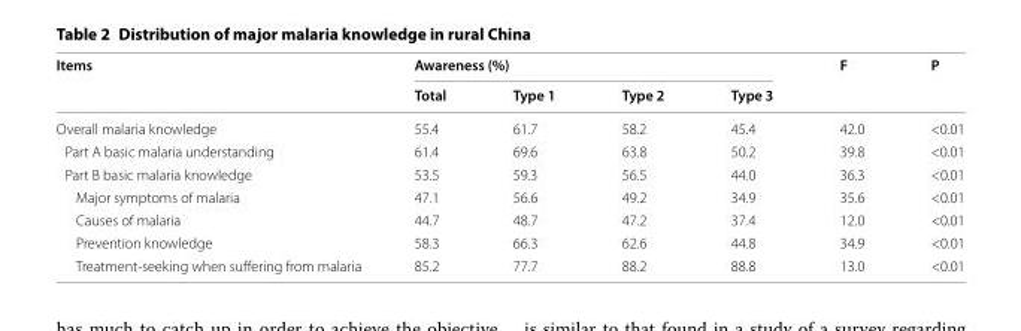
<table><thead><tr><td rowspan="2">Items</td><td colspan="4">Awareness (%)</td><td rowspan="2">F</td><td rowspan="2">P</td></tr><tr><td>Total</td><td>Type 1</td><td>Type 2</td><td>Type 3</td></tr></thead><tbody><tr><td>Overall malaria knowledge</td><td>55.4</td><td>61.7</td><td>58.2</td><td>45.4</td><td>42.0</td><td>&lt;0.01</td></tr><tr><td>Part A basic malaria understanding</td><td>61.4</td><td>69.6</td><td>63.8</td><td>50.2</td><td>39.8</td><td>&lt;0.01</td></tr><tr><td>Part B basic malaria knowledge</td><td>53.5</td><td>59.3</td><td>56.5</td><td>44.0</td><td>36.3</td><td>&lt;0.01</td></tr><tr><td>Major symptoms of malaria</td><td>47.1</td><td>56.6</td><td>49.2</td><td>34.9</td><td>35.6</td><td>&lt;0.01</td></tr><tr><td>Causes of malaria</td><td>44.7</td><td>48.7</td><td>47.2</td><td>37.4</td><td>12.0</td><td>&lt;0.01</td></tr><tr><td>Prevention knowledge</td><td>58.3</td><td>66.3</td><td>62.6</td><td>44.8</td><td>34.9</td><td>&lt;0.01</td></tr><tr><td>Treatment-seeking when suffering from malaria</td><td>85.2</td><td>77.7</td><td>88.2</td><td>88.8</td><td>13.0</td><td>&lt;0.01</td></tr></tbody></table>